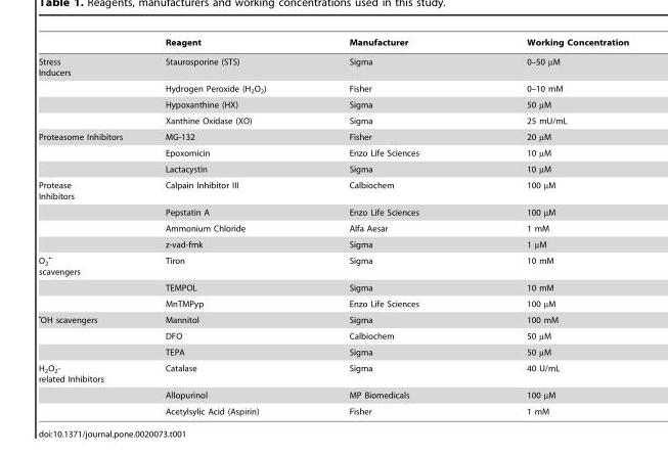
<table><thead><tr><td></td><td>Reagent</td><td>Manufacturer</td><td>Working Concentration</td></tr></thead><tbody><tr><td rowspan="4">Stress Inducers</td><td>Staurosporine (STS)</td><td>Sigma</td><td>0–50 µM</td></tr><tr><td>Hydrogen Peroxide (H<sub>2</sub>O<sub>2</sub>)</td><td>Fisher</td><td>0–10 mM</td></tr><tr><td>Hypoxanthine (HX)</td><td>Sigma</td><td>50 µM</td></tr><tr><td>Xanthine Oxidase (XO)</td><td>Sigma</td><td>25 mU/mL</td></tr><tr><td rowspan="3">Proteasome Inhibitors</td><td>MG-132</td><td>Fisher</td><td>20 µM</td></tr><tr><td>Epoxomicin</td><td>Enzo Life Sciences</td><td>10 µM</td></tr><tr><td>Lactacystin</td><td>Sigma</td><td>10 µM</td></tr><tr><td rowspan="4">Protease Inhibitors</td><td>Calpain Inhibitor III</td><td>Calbiochem</td><td>100 µM</td></tr><tr><td>Pepstatin A</td><td>Enzo Life Sciences</td><td>100 µM</td></tr><tr><td>Ammonium Chloride</td><td>Alfa Aesar</td><td>1 mM</td></tr><tr><td>z-vad-fmk</td><td>Sigma</td><td>1 µM</td></tr><tr><td rowspan="3">O<sub>2</sub> <sup>•-</sup> scavengers</td><td>Tiron</td><td>Sigma</td><td>10 mM</td></tr><tr><td>TEMPOL</td><td>Sigma</td><td>10 mM</td></tr><tr><td>MnTMPyp</td><td>Enzo Life Sciences</td><td>100 µM</td></tr><tr><td rowspan="3"><sup>•</sup>OH scavengers</td><td>Mannitol</td><td>Sigma</td><td>100 mM</td></tr><tr><td>DFO</td><td>Calbiochem</td><td>50 µM</td></tr><tr><td>TEPA</td><td>Sigma</td><td>50 µM</td></tr><tr><td rowspan="3">H<sub>2</sub>O<sub>2</sub>- related Inhibitors</td><td>Catalase</td><td>Sigma</td><td>40 U/mL</td></tr><tr><td>Allopurinol</td><td>MP Biomedicals</td><td>100 µM</td></tr><tr><td>Acetylsylic Acid (Aspirin)</td><td>Fisher</td><td>1 mM</td></tr></tbody></table>